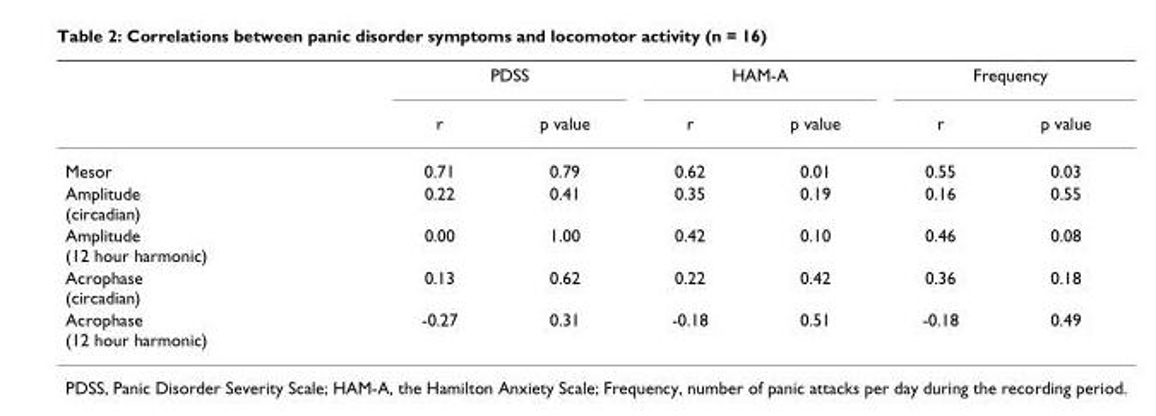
<table><thead><tr><td rowspan="2"></td><td colspan="2">PDSS</td><td colspan="2">HAM-A</td><td colspan="2">Frequency</td></tr><tr><td>r</td><td>p value</td><td>r</td><td>p value</td><td>r</td><td>p value</td></tr></thead><tbody><tr><td>Mesor</td><td>0.71</td><td>0.79</td><td>0.62</td><td>0.01</td><td>0.55</td><td>0.03</td></tr><tr><td>Amplitude (circadian)</td><td>0.22</td><td>0.41</td><td>0.35</td><td>0.19</td><td>0.16</td><td>0.55</td></tr><tr><td>Amplitude (12 hour harmonic)</td><td>0.00</td><td>1.00</td><td>0.42</td><td>0.10</td><td>0.46</td><td>0.08</td></tr><tr><td>Acrophase (circadian)</td><td>0.13</td><td>0.62</td><td>0.22</td><td>0.42</td><td>0.36</td><td>0.18</td></tr><tr><td>Acrophase (12 hour harmonic)</td><td>-0.27</td><td>0.31</td><td>-0.18</td><td>0.51</td><td>-0.18</td><td>0.49</td></tr></tbody></table>